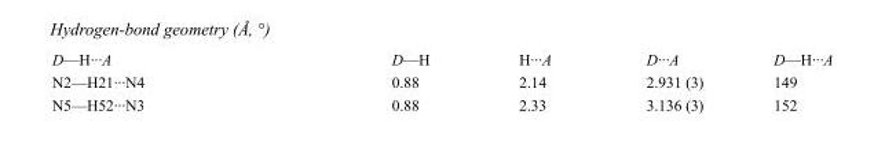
<table><tbody><tr><td>D—H···A</td><td>D—H</td><td>H···A</td><td>D···A</td><td>D—H···A</td></tr><tr><td>N2—H21···N4</td><td>0.88</td><td>2.14</td><td>2.931 (3)</td><td>149</td></tr><tr><td>N5—H52···N3</td><td>0.88</td><td>2.33</td><td>3.136 (3)</td><td>152</td></tr></tbody></table>